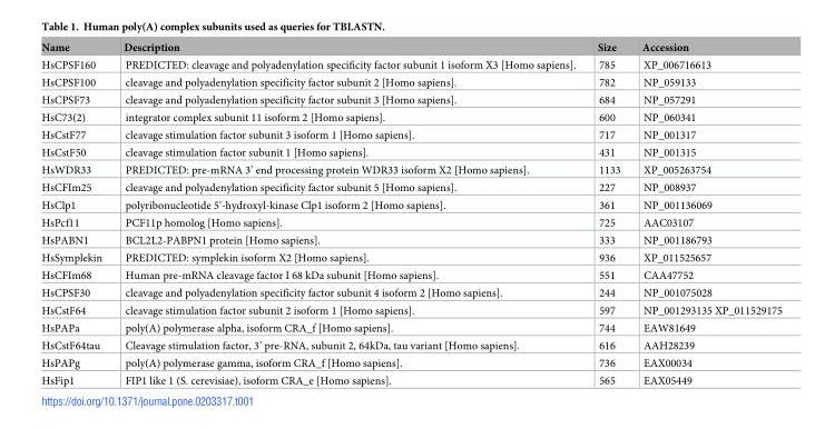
<table><thead><tr><td>Name</td><td>Description</td><td>Size</td><td>Accession</td></tr></thead><tbody><tr><td>HsCPSF160</td><td>PREDICTED: cleavage and polyadenylation specificity factor subunit 1 isoform X3 [Homo sapiens].</td><td>785</td><td>XP_006716613</td></tr><tr><td>HsCPSF100</td><td>cleavage and polyadenylation specificity factor subunit 2 [Homo sapiens].</td><td>782</td><td>NP_059133</td></tr><tr><td>HsCPSF73</td><td>cleavage and polyadenylation specificity factor subunit 3 [Homo sapiens].</td><td>684</td><td>NP_057291</td></tr><tr><td>HsC73(2)</td><td>integrator complex subunit 11 isoform 2 [Homo sapiens].</td><td>600</td><td>NP_060341</td></tr><tr><td>HsCstF77</td><td>cleavage stimulation factor subunit 3 isoform 1 [Homo sapiens].</td><td>717</td><td>NP_001317</td></tr><tr><td>HsCstF50</td><td>cleavage stimulation factor subunit 1 [Homo sapiens].</td><td>431</td><td>NP_001315</td></tr><tr><td>HsWDR33</td><td>PREDICTED: pre-mRNA 3’ end processing protein WDR33 isoform X2 [Homo sapiens].</td><td>1133</td><td>XP_005263754</td></tr><tr><td>HsCFIm25</td><td>cleavage and polyadenylation specificity factor subunit 5 [Homo sapiens].</td><td>227</td><td>NP_008937</td></tr><tr><td>HsClp1</td><td>polyribonucleotide 5’-hydroxyl-kinase Clp1 isoform 2 [Homo sapiens].</td><td>361</td><td>NP_001136069</td></tr><tr><td>HsPcf11</td><td>PCF11p homolog [Homo sapiens].</td><td>725</td><td>AAC03107</td></tr><tr><td>HsPABN1</td><td>BCL2L2-PABPN1 protein [Homo sapiens].</td><td>333</td><td>NP_001186793</td></tr><tr><td>HsSymplekin</td><td>PREDICTED: symplekin isoform X2 [Homo sapiens].</td><td>936</td><td>XP_011525657</td></tr><tr><td>HsCFIm68</td><td>Human pre-mRNA cleavage factor I 68 kDa subunit [Homo sapiens].</td><td>551</td><td>CAA47752</td></tr><tr><td>HsCPSF30</td><td>cleavage and polyadenylation specificity factor subunit 4 isoform 2 [Homo sapiens].</td><td>244</td><td>NP_001075028</td></tr><tr><td>HsCstF64</td><td>cleavage stimulation factor subunit 2 isoform 1 [Homo sapiens].</td><td>597</td><td>NP_001293135 XP_011529175</td></tr><tr><td>HsPAPa</td><td>poly(A) polymerase alpha, isoform CRA_f [Homo sapiens].</td><td>744</td><td>EAW81649</td></tr><tr><td>HsCstF64tau</td><td>Cleavage stimulation factor, 3’ pre-RNA, subunit 2, 64kDa, tau variant [Homo sapiens].</td><td>616</td><td>AAH28239</td></tr><tr><td>HsPAPg</td><td>poly(A) polymerase gamma, isoform CRA_f [Homo sapiens].</td><td>736</td><td>EAX00034</td></tr><tr><td>HsFip1</td><td>FIP1 like 1 (S. cerevisiae), isoform CRA_e [Homo sapiens].</td><td>565</td><td>EAX05449</td></tr></tbody></table>